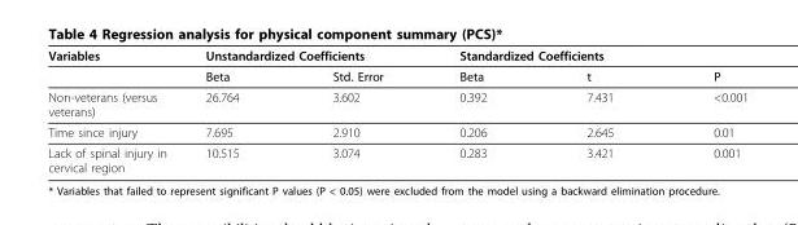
<table><thead><tr><td rowspan="2">Variables</td><td colspan="2">Unstandardized Coefficients</td><td colspan="3">Standardized Coefficients</td></tr><tr><td>Beta</td><td>Std. Error</td><td>Beta</td><td>t</td><td>P</td></tr></thead><tbody><tr><td>Non-veterans (versus veterans)</td><td>26.764</td><td>3.602</td><td>0.392</td><td>7.431</td><td>&lt;0.001</td></tr><tr><td>Time since injury</td><td>7.695</td><td>2.910</td><td>0.206</td><td>2.645</td><td>0.01</td></tr><tr><td>Lack of spinal injury in cervical region</td><td>10.515</td><td>3.074</td><td>0.283</td><td>3.421</td><td>0.001</td></tr></tbody></table>